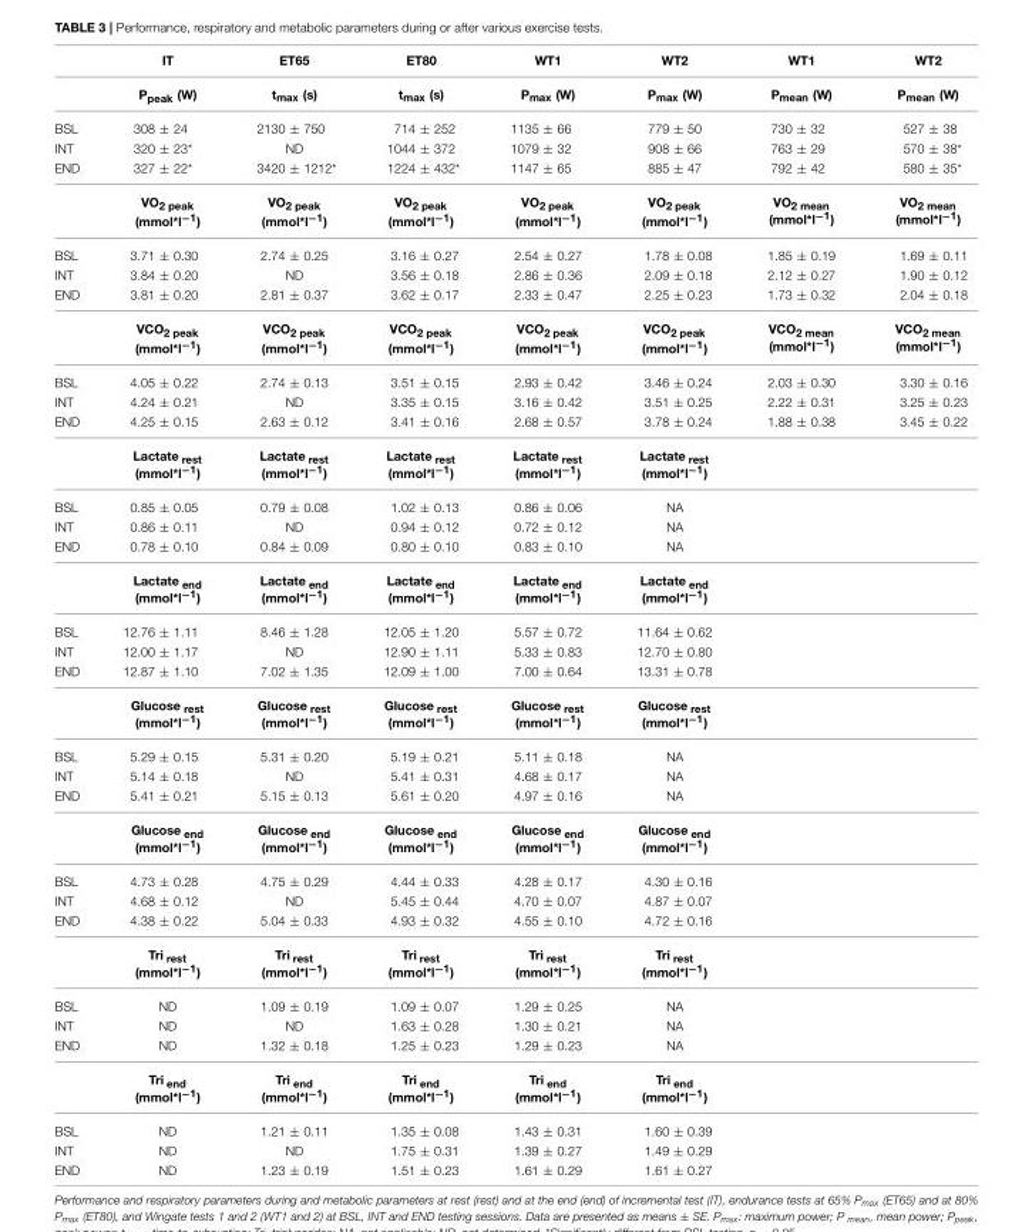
<table><thead><tr><td rowspan="2"></td><td rowspan="2">IT P<sub>peak</sub> (W)</td><td rowspan="2">ET65 t<sub>max</sub> (s)</td><td rowspan="2">ET80 t<sub>max</sub> (s)</td><td rowspan="2">WT1 P<sub>max</sub> (W)</td><td rowspan="2">WT2 P<sub>max</sub> (W)</td><td rowspan="2">WT1 P<sub>mean</sub> (W)</td><td rowspan="2">WT2 P<sub>mean</sub> (W)</td></tr><tr></tr></thead><tbody><tr><td>BSL</td><td>308 ± 24</td><td>2130 ± 750</td><td>714 ± 252</td><td>1135 ± 66</td><td>779 ± 50</td><td>730 ± 32</td><td>527 ± 38</td></tr><tr><td>INT</td><td>320 ± 23*</td><td>ND</td><td>1044 ± 372</td><td>1079 ± 32</td><td>908 ± 66</td><td>763 ± 29</td><td>570 ± 38*</td></tr><tr><td rowspan="2">END</td><td>327 ± 22*</td><td>3420 ± 1212*</td><td>1224 ± 432*</td><td>1147 ± 65</td><td>885 ± 47</td><td>792 ± 42</td><td>580 ± 35*</td></tr><tr><td>VO<sub>2 peak</sub> (mmol*l<sup>−1</sup>)</td><td>VO<sub>2 peak</sub> (mmol*l<sup>−1</sup>)</td><td>VO<sub>2 peak</sub> (mmol*l<sup>−1</sup>)</td><td>VO<sub>2 peak</sub> (mmol*l<sup>−1</sup>)</td><td>VO<sub>2 peak</sub> (mmol*l<sup>−1</sup>)</td><td>VO<sub>2 mean</sub> (mmol*l<sup>−1</sup>)</td><td>VO<sub>2 mean</sub> (mmol*l<sup>−1</sup>)</td></tr><tr><td>BSL</td><td>3.71 ± 0.30</td><td>2.74 ± 0.25</td><td>3.16 ± 0.27</td><td>2.54 ± 0.27</td><td>1.78 ± 0.08</td><td>1.85 ± 0.19</td><td>1.69 ± 0.11</td></tr><tr><td>INT</td><td>3.84 ± 0.20</td><td>ND</td><td>3.56 ± 0.18</td><td>2.86 ± 0.36</td><td>2.09 ± 0.18</td><td>2.12 ± 0.27</td><td>1.90 ± 0.12</td></tr><tr><td rowspan="2">END</td><td>3.81 ± 0.20</td><td>2.81 ± 0.37</td><td>3.62 ± 0.17</td><td>2.33 ± 0.47</td><td>2.25 ± 0.23</td><td>1.73 ± 0.32</td><td>2.04 ± 0.18</td></tr><tr><td>VCO<sub>2 peak</sub> (mmol*l<sup>−1</sup>)</td><td>VCO<sub>2 peak</sub> (mmol*l<sup>−1</sup>)</td><td>VCO<sub>2 peak</sub> (mmol*l<sup>−1</sup>)</td><td>VCO<sub>2 peak</sub> (mmol*l<sup>−1</sup>)</td><td>VCO<sub>2 peak</sub> (mmol*l<sup>−1</sup>)</td><td>VCO<sub>2 mean</sub> (mmol*l<sup>−1</sup>)</td><td>VCO<sub>2 mean</sub> (mmol*l<sup>−1</sup>)</td></tr><tr><td>BSL</td><td>4.05 ± 0.22</td><td>2.74 ± 0.13</td><td>3.51 ± 0.15</td><td>2.93 ± 0.42</td><td>3.46 ± 0.24</td><td>2.03 ± 0.30</td><td>3.30 ± 0.16</td></tr><tr><td>INT</td><td>4.24 ± 0.21</td><td>ND</td><td>3.35 ± 0.15</td><td>3.16 ± 0.42</td><td>3.51 ± 0.25</td><td>2.22 ± 0.31</td><td>3.25 ± 0.23</td></tr><tr><td rowspan="2">END</td><td>4.25 ± 0.15</td><td>2.63 ± 0.12</td><td>3.41 ± 0.16</td><td>2.68 ± 0.57</td><td>3.78 ± 0.24</td><td>1.88 ± 0.38</td><td>3.45 ± 0.22</td></tr><tr><td>Lactate <sub>rest</sub> (mmol*l<sup>−1</sup>)</td><td>Lactate <sub>rest</sub> (mmol*l<sup>−1</sup>)</td><td>Lactate <sub>rest</sub> (mmol*l<sup>−1</sup>)</td><td>Lactate <sub>rest</sub> (mmol*l<sup>−1</sup>)</td><td>Lactate <sub>rest</sub> (mmol*l<sup>−1</sup>)</td><td></td><td></td></tr><tr><td>BSL</td><td>0.85 ± 0.05</td><td>0.79 ± 0.08</td><td>1.02 ± 0.13</td><td>0.86 ± 0.06</td><td>NA</td><td></td><td></td></tr><tr><td>INT</td><td>0.86 ± 0.11</td><td>ND</td><td>0.94 ± 0.12</td><td>0.72 ± 0.12</td><td>NA</td><td></td><td></td></tr><tr><td rowspan="2">END</td><td>0.78 ± 0.10</td><td>0.84 ± 0.09</td><td>0.80 ± 0.10</td><td>0.83 ± 0.10</td><td>NA</td><td></td><td></td></tr><tr><td>Lactate <sub>end</sub> (mmol*l<sup>−1</sup>)</td><td>Lactate <sub>end</sub> (mmol*l<sup>−1</sup>)</td><td>Lactate <sub>end</sub> (mmol*l<sup>−1</sup>)</td><td>Lactate <sub>end</sub> (mmol*l<sup>−1</sup>)</td><td>Lactate <sub>end</sub> (mmol*l<sup>−1</sup>)</td><td></td><td></td></tr><tr><td>BSL</td><td>12.76 ± 1.11</td><td>8.46 ± 1.28</td><td>12.05 ± 1.20</td><td>5.57 ± 0.72</td><td>11.64 ± 0.62</td><td></td><td></td></tr><tr><td>INT</td><td>12.00 ± 1.17</td><td>ND</td><td>12.90 ± 1.11</td><td>5.33 ± 0.83</td><td>12.70 ± 0.80</td><td></td><td></td></tr><tr><td rowspan="2">END</td><td>12.87 ± 1.10</td><td>7.02 ± 1.35</td><td>12.09 ± 1.00</td><td>7.00 ± 0.64</td><td>13.31 ± 0.78</td><td></td><td></td></tr><tr><td>Glucose <sub>rest</sub> (mmol*l<sup>−1</sup>)</td><td>Glucose <sub>rest</sub> (mmol*l<sup>−1</sup>)</td><td>Glucose <sub>rest</sub> (mmol*l<sup>−1</sup>)</td><td>Glucose <sub>rest</sub> (mmol*l<sup>−1</sup>)</td><td>Glucose <sub>rest</sub> (mmol*l<sup>−1</sup>)</td><td></td><td></td></tr><tr><td>BSL</td><td>5.29 ± 0.15</td><td>5.31 ± 0.20</td><td>5.19 ± 0.21</td><td>5.11 ± 0.18</td><td>NA</td><td></td><td></td></tr><tr><td>INT</td><td>5.14 ± 0.18</td><td>ND</td><td>5.41 ± 0.31</td><td>4.68 ± 0.17</td><td>NA</td><td></td><td></td></tr><tr><td rowspan="2">END</td><td>5.41 ± 0.21</td><td>5.15 ± 0.13</td><td>5.61 ± 0.20</td><td>4.97 ± 0.16</td><td>NA</td><td></td><td></td></tr><tr><td>Glucose <sub>end</sub> (mmol*l<sup>−1</sup>)</td><td>Glucose <sub>end</sub> (mmol*l<sup>−1</sup>)</td><td>Glucose <sub>end</sub> (mmol*l<sup>−1</sup>)</td><td>Glucose <sub>end</sub> (mmol*l<sup>−1</sup>)</td><td>Glucose <sub>end</sub> (mmol*l<sup>−1</sup>)</td><td></td><td></td></tr><tr><td>BSL</td><td>4.73 ± 0.28</td><td>4.75 ± 0.29</td><td>4.44 ± 0.33</td><td>4.28 ± 0.17</td><td>4.30 ± 0.16</td><td></td><td></td></tr><tr><td>INT</td><td>4.68 ± 0.12</td><td>ND</td><td>5.45 ± 0.44</td><td>4.70 ± 0.07</td><td>4.87 ± 0.07</td><td></td><td></td></tr><tr><td rowspan="2">END</td><td>4.38 ± 0.22</td><td>5.04 ± 0.33</td><td>4.93 ± 0.32</td><td>4.55 ± 0.10</td><td>4.72 ± 0.16</td><td></td><td></td></tr><tr><td>Tri <sub>rest</sub> (mmol*l<sup>−1</sup>)</td><td>Tri <sub>rest</sub> (mmol*l<sup>−1</sup>)</td><td>Tri <sub>rest</sub> (mmol*l<sup>−1</sup>)</td><td>Tri <sub>rest</sub> (mmol*l<sup>−1</sup>)</td><td>Tri <sub>rest</sub> (mmol*l<sup>−1</sup>)</td><td></td><td></td></tr><tr><td>BSL</td><td>ND</td><td>1.09 ± 0.19</td><td>1.09 ± 0.07</td><td>1.29 ± 0.25</td><td>NA</td><td></td><td></td></tr><tr><td>INT</td><td>ND</td><td>ND</td><td>1.63 ± 0.28</td><td>1.30 ± 0.21</td><td>NA</td><td></td><td></td></tr><tr><td rowspan="2">END</td><td>ND</td><td>1.32 ± 0.18</td><td>1.25 ± 0.23</td><td>1.29 ± 0.23</td><td>NA</td><td></td><td></td></tr><tr><td>Tri <sub>end</sub> (mmol*l<sup>−1</sup>)</td><td>Tri <sub>end</sub> (mmol*l<sup>−1</sup>)</td><td>Tri <sub>end</sub> (mmol*l<sup>−1</sup>)</td><td>Tri <sub>end</sub> (mmol*l<sup>−1</sup>)</td><td>Tri <sub>end</sub> (mmol*l<sup>−1</sup>)</td><td></td><td></td></tr><tr><td>BSL</td><td>ND</td><td>1.21 ± 0.11</td><td>1.35 ± 0.08</td><td>1.43 ± 0.31</td><td>1.60 ± 0.39</td><td></td><td></td></tr><tr><td>INT</td><td>ND</td><td>ND</td><td>1.75 ± 0.31</td><td>1.39 ± 0.27</td><td>1.49 ± 0.29</td><td></td><td></td></tr><tr><td>END</td><td>ND</td><td>1.23 ± 0.19</td><td>1.51 ± 0.23</td><td>1.61 ± 0.29</td><td>1.61 ± 0.27</td><td></td><td></td></tr></tbody></table>